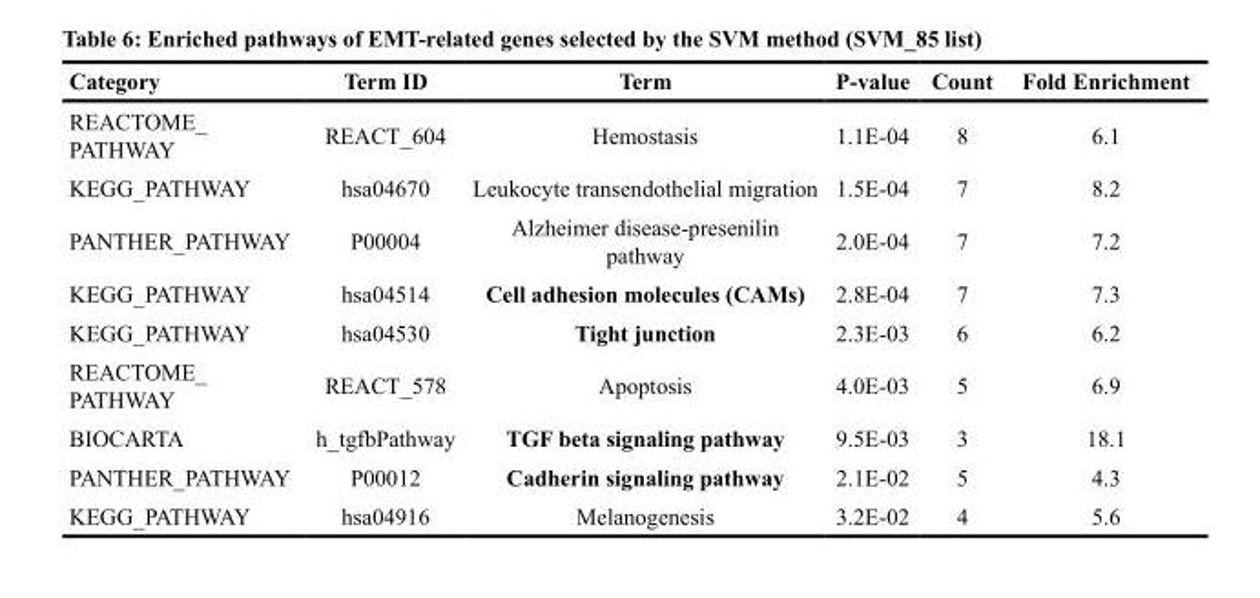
<table><thead><tr><td>Category</td><td>Term ID</td><td>Term</td><td>P-value</td><td>Count</td><td>Fold Enrichment</td></tr></thead><tbody><tr><td>REACTOME_ PATHWAY</td><td>REACT_604</td><td>Hemostasis</td><td>1.1E-04</td><td>8</td><td>6.1</td></tr><tr><td>KEGG_PATHWAY</td><td>hsa04670</td><td>Leukocyte transendothelial migration</td><td>1.5E-04</td><td>7</td><td>8.2</td></tr><tr><td>PANTHER_PATHWAY</td><td>P00004</td><td>Alzheimer disease-presenilin pathway</td><td>2.0E-04</td><td>7</td><td>7.2</td></tr><tr><td>KEGG_PATHWAY</td><td>hsa04514</td><td>Cell adhesion molecules (CAMs)</td><td>2.8E-04</td><td>7</td><td>7.3</td></tr><tr><td>KEGG_PATHWAY</td><td>hsa04530</td><td>Tight junction</td><td>2.3E-03</td><td>6</td><td>6.2</td></tr><tr><td>REACTOME_ PATHWAY</td><td>REACT_578</td><td>Apoptosis</td><td>4.0E-03</td><td>5</td><td>6.9</td></tr><tr><td>BIOCARTA</td><td>h_tgfbPathway</td><td>TGF beta signaling pathway</td><td>9.5E-03</td><td>3</td><td>18.1</td></tr><tr><td>PANTHER_PATHWAY</td><td>P00012</td><td>Cadherin signaling pathway</td><td>2.1E-02</td><td>5</td><td>4.3</td></tr><tr><td>KEGG_PATHWAY</td><td>hsa04916</td><td>Melanogenesis</td><td>3.2E-02</td><td>4</td><td>5.6</td></tr></tbody></table>